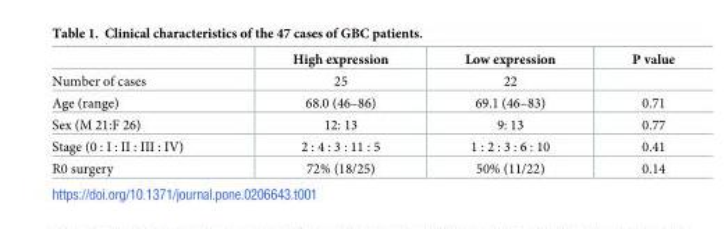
<table><thead><tr><td></td><td>High expression</td><td>Low expression</td><td>P value</td></tr></thead><tbody><tr><td>Number of cases</td><td>25</td><td>22</td><td></td></tr><tr><td>Age (range)</td><td>68.0 (46–86)</td><td>69.1 (46–83)</td><td>0.71</td></tr><tr><td>Sex (M 21:F 26)</td><td>12: 13</td><td>9: 13</td><td>0.77</td></tr><tr><td>Stage (0 : I : II : III : IV)</td><td>2 : 4 : 3 : 11 : 5</td><td>1 : 2 : 3 : 6 : 10</td><td>0.41</td></tr><tr><td>R0 surgery</td><td>72% (18/25)</td><td>50% (11/22)</td><td>0.14</td></tr></tbody></table>